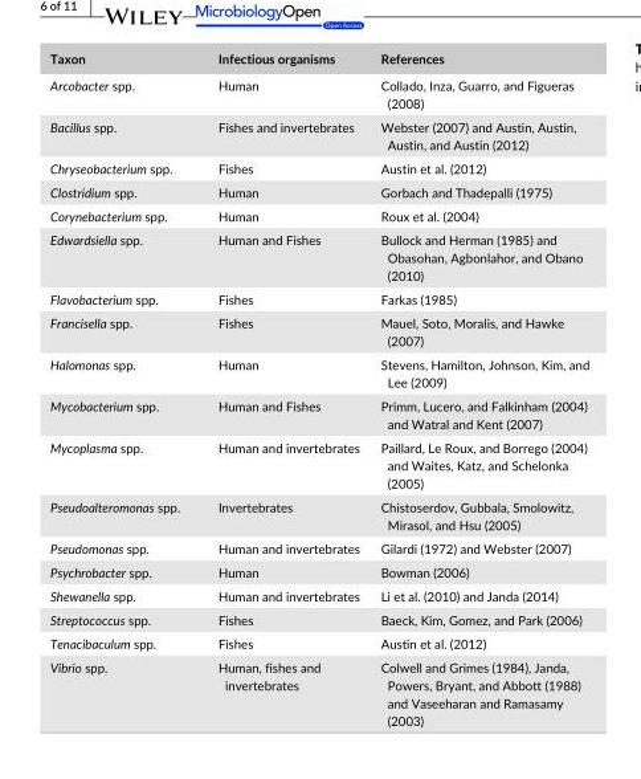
<table><thead><tr><td>Taxon</td><td>Infectious organisms</td><td>References</td></tr></thead><tbody><tr><td>Arcobacter spp.</td><td>Human</td><td>Collado, Inza, Guarro, and Figueras (2008)</td></tr><tr><td>Bacillus spp.</td><td>Fishes and invertebrates</td><td>Webster (2007) and Austin, Austin, Austin, and Austin (2012)</td></tr><tr><td>Chryseobacterium spp.</td><td>Fishes</td><td>Austin et al. (2012)</td></tr><tr><td>Clostridium spp.</td><td>Human</td><td>Gorbach and Thadepalli (1975)</td></tr><tr><td>Corynebacterium spp.</td><td>Human</td><td>Roux et al. (2004)</td></tr><tr><td>Edwardsiella spp.</td><td>Human and Fishes</td><td>Bullock and Herman (1985) and Obasohan, Agbonlahor, and Obano (2010)</td></tr><tr><td>Flavobacterium spp.</td><td>Fishes</td><td>Farkas (1985)</td></tr><tr><td>Francisella spp.</td><td>Fishes</td><td>Mauel, Soto, Moralis, and Hawke (2007)</td></tr><tr><td>Halomonas spp.</td><td>Human</td><td>Stevens, Hamilton, Johnson, Kim, and Lee (2009)</td></tr><tr><td>Mycobacterium spp.</td><td>Human and Fishes</td><td>Primm, Lucero, and Falkinham (2004) and Watral and Kent (2007)</td></tr><tr><td>Mycoplasma spp.</td><td>Human and invertebrates</td><td>Paillard, Le Roux, and Borrego (2004) and Waites, Katz, and Schelonka (2005)</td></tr><tr><td>Pseudoalteromonas spp.</td><td>Invertebrates</td><td>Chistoserdov, Gubbala, Smolowitz, Mirasol, and Hsu (2005)</td></tr><tr><td>Pseudomonas spp.</td><td>Human and invertebrates</td><td>Gilardi (1972) and Webster (2007)</td></tr><tr><td>Psychrobacter spp.</td><td>Human</td><td>Bowman (2006)</td></tr><tr><td>Shewanella spp.</td><td>Human and invertebrates</td><td>Li et al. (2010) and Janda (2014)</td></tr><tr><td>Streptococcus spp.</td><td>Fishes</td><td>Baeck, Kim, Gomez, and Park (2006)</td></tr><tr><td>Tenacibaculum spp.</td><td>Fishes</td><td>Austin et al. (2012)</td></tr><tr><td>Vibrio spp.</td><td>Human, fishes and invertebrates</td><td>Colwell and Grimes (1984), Janda, Powers, Bryant, and Abbott (1988) and Vaseeharan and Ramasamy (2003)</td></tr></tbody></table>